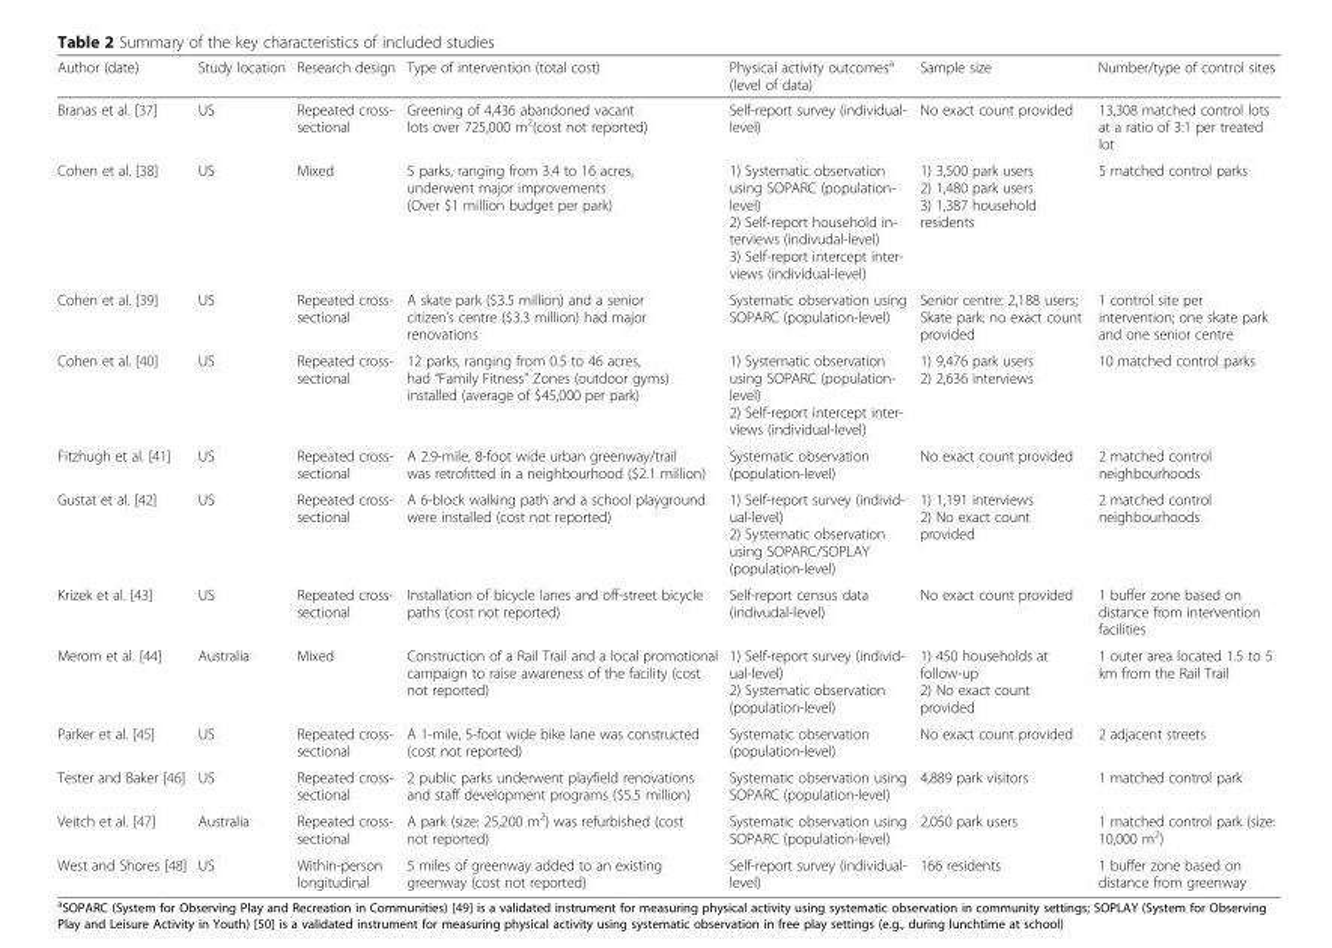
<table><thead><tr><td>Author (date)</td><td>Study location</td><td>Research design</td><td>Type of intervention (total cost)</td><td>Physical activity outcomes<sup>a</sup> (level of data)</td><td>Sample size</td><td>Number/type of control sites</td></tr></thead><tbody><tr><td>Branas et al. [37]</td><td>US</td><td>Repeated cross- sectional</td><td>Greening of 4,436 abandoned vacant lots over 725,000 m<sup>2</sup>(cost not reported)</td><td>Self-report survey (individual- level)</td><td>No exact count provided</td><td>13,308 matched control lots at a ratio of 3:1 per treated lot</td></tr><tr><td>Cohen et al. [38]</td><td>US</td><td>Mixed</td><td>5 parks, ranging from 3.4 to 16 acres, underwent major improvements (Over $1 million budget per park)</td><td>1) Systematic observation using SOPARC (population- level) 2) Self-report household in- terviews (indivudal-level) 3) Self-report intercept inter- views (individual-level)</td><td>1) 3,500 park users 2) 1,480 park users 3) 1,387 household residents</td><td>5 matched control parks</td></tr><tr><td>Cohen et al. [39]</td><td>US</td><td>Repeated cross- sectional</td><td>A skate park ($3.5 million) and a senior citizen’s centre ($3.3 million) had major renovations</td><td>Systematic observation using SOPARC (population-level)</td><td>Senior centre: 2,188 users; Skate park: no exact count provided</td><td>1 control site per intervention; one skate park and one senior centre</td></tr><tr><td>Cohen et al. [40]</td><td>US</td><td>Repeated cross- sectional</td><td>12 parks, ranging from 0.5 to 46 acres, had “Family Fitness” Zones (outdoor gyms) installed (average of $45,000 per park)</td><td>1) Systematic observation using SOPARC (population- level) 2) Self-report intercept inter- views (individual-level)</td><td>1) 9,476 park users 2) 2,636 interviews</td><td>10 matched control parks</td></tr><tr><td>Fitzhugh et al. [41]</td><td>US</td><td>Repeated cross- sectional</td><td>A 2.9-mile, 8-foot wide urban greenway/trail was retrofıtted in a neighbourhood ($2.1 million)</td><td>Systematic observation (population-level)</td><td>No exact count provided</td><td>2 matched control neighbourhoods</td></tr><tr><td>Gustat et al. [42]</td><td>US</td><td>Repeated cross- sectional</td><td>A 6-block walking path and a school playground were installed (cost not reported)</td><td>1) Self-report survey (individ- ual-level) 2) Systematic observation using SOPARC/SOPLAY (population-level)</td><td>1) 1,191 interviews 2) No exact count provided</td><td>2 matched control neighbourhoods</td></tr><tr><td>Krizek et al. [43]</td><td>US</td><td>Repeated cross- sectional</td><td>Installation of bicycle lanes and off-street bicycle paths (cost not reported)</td><td>Self-report census data (indivudal-level)</td><td>No exact count provided</td><td>1 buffer zone based on distance from intervention facilities</td></tr><tr><td>Merom et al. [44]</td><td>Australia</td><td>Mixed</td><td>Construction of a Rail Trail and a local promotional campaign to raise awareness of the facility (cost not reported)</td><td>1) Self-report survey (individ- ual-level) 2) Systematic observation (population-level)</td><td>1) 450 households at follow-up 2) No exact count provided</td><td>1 outer area located 1.5 to 5 km from the Rail Trail</td></tr><tr><td>Parker et al. [45]</td><td>US</td><td>Repeated cross- sectional</td><td>A 1-mile, 5-foot wide bike lane was constructed (cost not reported)</td><td>Systematic observation (population-level)</td><td>No exact count provided</td><td>2 adjacent streets</td></tr><tr><td>Tester and Baker [46]</td><td>US</td><td>Repeated cross- sectional</td><td>2 public parks underwent playfield renovations and staff development programs ($5.5 million)</td><td>Systematic observation using SOPARC (population-level)</td><td>4,889 park visitors</td><td>1 matched control park</td></tr><tr><td>Veitch et al. [47]</td><td>Australia</td><td>Repeated cross- sectional</td><td>A park (size: 25,200 m<sup>2</sup>) was refurbished (cost not reported)</td><td>Systematic observation using SOPARC (population-level)</td><td>2,050 park users</td><td>1 matched control park (size: 10,000 m<sup>2</sup>)</td></tr><tr><td>West and Shores [48]</td><td>US</td><td>Within-person longitudinal</td><td>5 miles of greenway added to an existing greenway (cost not reported)</td><td>Self-report survey (individual- level)</td><td>166 residents</td><td>1 buffer zone based on distance from greenway</td></tr></tbody></table>